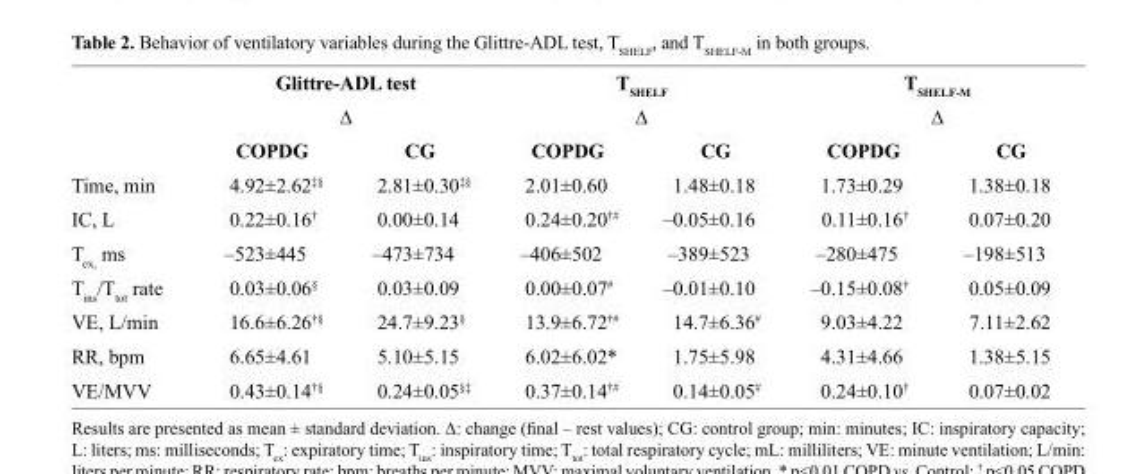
<table><thead><tr><td rowspan="3"></td><td rowspan="2" colspan="2">Glittre-ADL test ∆</td><td rowspan="2" colspan="2">T<sub>SHELF</sub> ∆</td><td rowspan="2" colspan="2">T<sub>SHELF-M</sub> ∆</td></tr><tr></tr><tr><td>COPDG</td><td>CG</td><td>COPDG</td><td>CG</td><td>COPDG</td><td>CG</td></tr></thead><tbody><tr><td>Time, min</td><td>4.92±2.62‡§</td><td>2.81±0.30‡§</td><td>2.01±0.60</td><td>1.48±0.18</td><td>1.73±0.29</td><td>1.38±0.18</td></tr><tr><td>IC, L</td><td>0.22±0.16†</td><td>0.00±0.14</td><td>0.24±0.20†#</td><td>–0.05±0.16</td><td>0.11±0.16†</td><td>0.07±0.20</td></tr><tr><td>T<sub>ex,</sub> ms</td><td>–523±445</td><td>–473±734</td><td>–406±502</td><td>–389±523</td><td>–280±475</td><td>–198±513</td></tr><tr><td>T<sub>ins</sub>/T<sub>tot</sub> rate</td><td>0.03±0.06§</td><td>0.03±0.09</td><td>0.00±0.07#</td><td>–0.01±0.10</td><td>–0.15±0.08†</td><td>0.05±0.09</td></tr><tr><td>VE, L/min</td><td>16.6±6.26†§</td><td>24.7±9.23§</td><td>13.9±6.72†#</td><td>14.7±6.36#</td><td>9.03±4.22</td><td>7.11±2.62</td></tr><tr><td>RR, bpm</td><td>6.65±4.61</td><td>5.10±5.15</td><td>6.02±6.02*</td><td>1.75±5.98</td><td>4.31±4.66</td><td>1.38±5.15</td></tr><tr><td>VE/MVV</td><td>0.43±0.14†§</td><td>0.24±0.05§‡</td><td>0.37±0.14†#</td><td>0.14±0.05#</td><td>0.24±0.10†</td><td>0.07±0.02</td></tr></tbody></table>